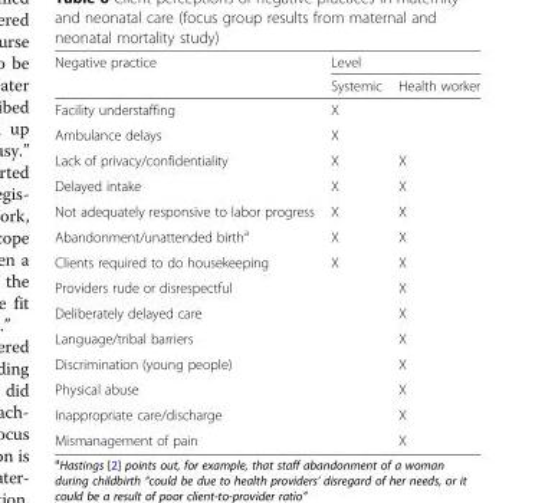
<table><thead><tr><td rowspan="2">Negative practice</td><td colspan="2">Level</td></tr><tr><td>Systemic</td><td>Health worker</td></tr></thead><tbody><tr><td>Facility understaffing</td><td>X</td><td></td></tr><tr><td>Ambulance delays</td><td>X</td><td></td></tr><tr><td>Lack of privacy/confidentiality</td><td>X</td><td>X</td></tr><tr><td>Delayed intake</td><td>X</td><td>X</td></tr><tr><td>Not adequately responsive to labor progress</td><td>X</td><td>X</td></tr><tr><td>Abandonment/unattended birth<sup>a</sup></td><td>X</td><td>X</td></tr><tr><td>Clients required to do housekeeping</td><td>X</td><td>X</td></tr><tr><td>Providers rude or disrespectful</td><td></td><td>X</td></tr><tr><td>Deliberately delayed care</td><td></td><td>X</td></tr><tr><td>Language/tribal barriers</td><td></td><td>X</td></tr><tr><td>Discrimination (young people)</td><td></td><td>X</td></tr><tr><td>Physical abuse</td><td></td><td>X</td></tr><tr><td>Inappropriate care/discharge</td><td></td><td>X</td></tr><tr><td>Mismanagement of pain</td><td></td><td>X</td></tr></tbody></table>